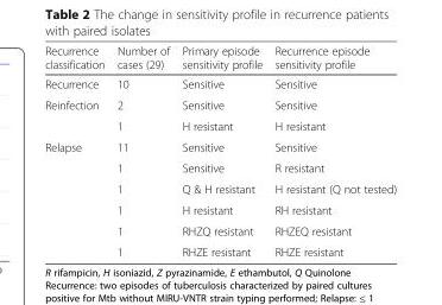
<table><thead><tr><td>Recurrence classification</td><td>Number of cases (29)</td><td>Primary episode sensitivity profile</td><td>Recurrence episode sensitivity profile</td></tr></thead><tbody><tr><td>Recurrence</td><td>10</td><td>Sensitive</td><td>Sensitive</td></tr><tr><td rowspan="2">Reinfection</td><td>2</td><td>Sensitive</td><td>Sensitive</td></tr><tr><td>1</td><td>H resistant</td><td>H resistant</td></tr><tr><td rowspan="6">Relapse</td><td>11</td><td>Sensitive</td><td>Sensitive</td></tr><tr><td>1</td><td>Sensitive</td><td>R resistant</td></tr><tr><td>1</td><td>Q &amp; H resistant</td><td>H resistant (Q not tested)</td></tr><tr><td>1</td><td>H resistant</td><td>RH resistant</td></tr><tr><td>1</td><td>RHZQ resistant</td><td>RHZEQ resistant</td></tr><tr><td>1</td><td>RHZE resistant</td><td>RHZE resistant</td></tr></tbody></table>